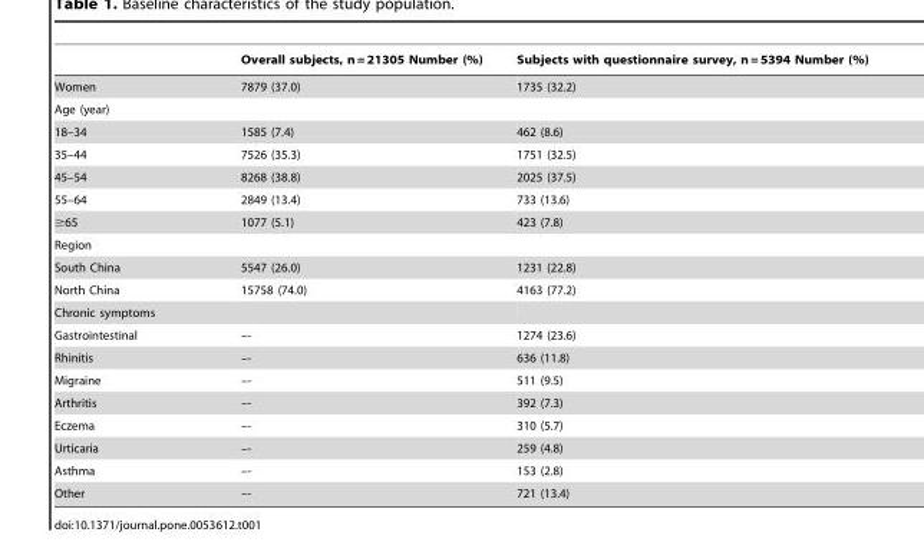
<table><thead><tr><td></td><td>Overall subjects, n = 21305 Number (%)</td><td>Subjects with questionnaire survey, n = 5394 Number (%)</td></tr></thead><tbody><tr><td>Women</td><td>7879 (37.0)</td><td>1735 (32.2)</td></tr><tr><td colspan="3">Age (year)</td></tr><tr><td>18–34</td><td>1585 (7.4)</td><td>462 (8.6)</td></tr><tr><td>35–44</td><td>7526 (35.3)</td><td>1751 (32.5)</td></tr><tr><td>45–54</td><td>8268 (38.8)</td><td>2025 (37.5)</td></tr><tr><td>55–64</td><td>2849 (13.4)</td><td>733 (13.6)</td></tr><tr><td>≥65</td><td>1077 (5.1)</td><td>423 (7.8)</td></tr><tr><td colspan="3">Region</td></tr><tr><td>South China</td><td>5547 (26.0)</td><td>1231 (22.8)</td></tr><tr><td>North China</td><td>15758 (74.0)</td><td>4163 (77.2)</td></tr><tr><td colspan="3">Chronic symptoms</td></tr><tr><td>Gastrointestinal</td><td>–-</td><td>1274 (23.6)</td></tr><tr><td>Rhinitis</td><td>–-</td><td>636 (11.8)</td></tr><tr><td>Migraine</td><td>–-</td><td>511 (9.5)</td></tr><tr><td>Arthritis</td><td>–-</td><td>392 (7.3)</td></tr><tr><td>Eczema</td><td>–-</td><td>310 (5.7)</td></tr><tr><td>Urticaria</td><td>–-</td><td>259 (4.8)</td></tr><tr><td>Asthma</td><td>–-</td><td>153 (2.8)</td></tr><tr><td>Other</td><td>–-</td><td>721 (13.4)</td></tr></tbody></table>